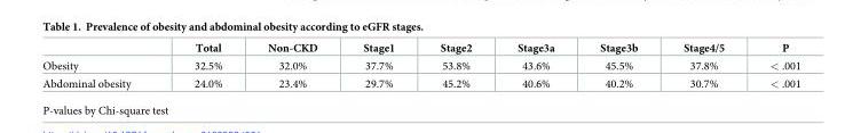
<table><thead><tr><td></td><td>Total</td><td>Non-CKD</td><td>Stage1</td><td>Stage2</td><td>Stage3a</td><td>Stage3b</td><td>Stage4/5</td><td>P</td></tr></thead><tbody><tr><td>Obesity</td><td>32.5%</td><td>32.0%</td><td>37.7%</td><td>53.8%</td><td>43.6%</td><td>45.5%</td><td>37.8%</td><td>&lt; .001</td></tr><tr><td>Abdominal obesity</td><td>24.0%</td><td>23.4%</td><td>29.7%</td><td>45.2%</td><td>40.6%</td><td>40.2%</td><td>30.7%</td><td>&lt; .001</td></tr></tbody></table>